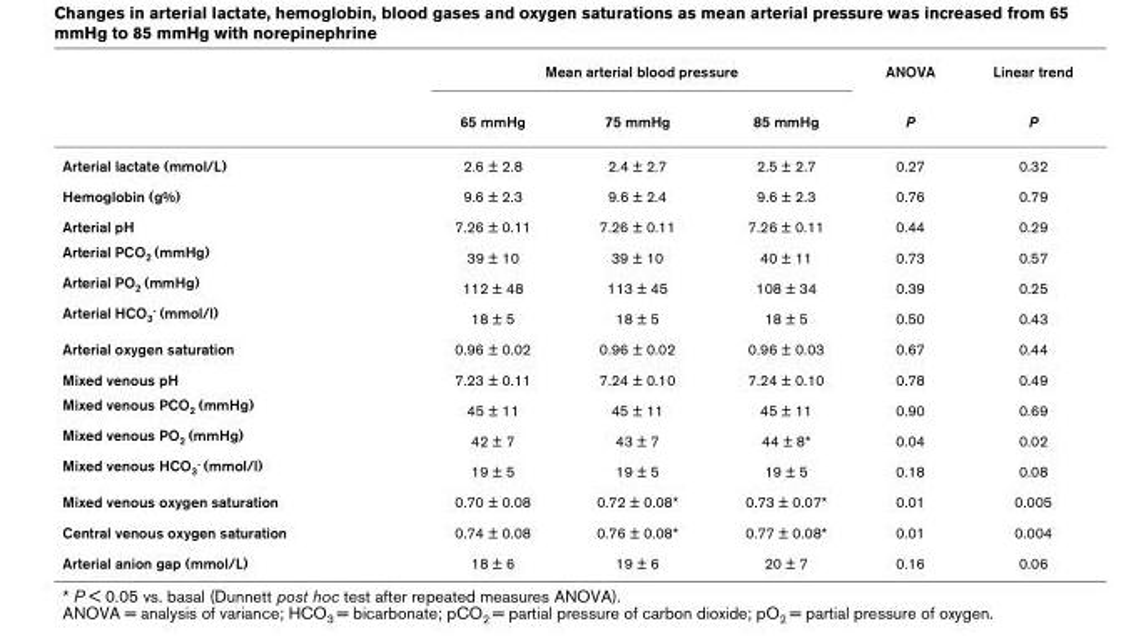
<table><thead><tr><td rowspan="2"></td><td colspan="3">Mean arterial blood pressure</td><td rowspan="2">ANOVA P</td><td rowspan="2">Linear trend P</td></tr><tr><td>65 mmHg</td><td>75 mmHg</td><td>85 mmHg</td></tr></thead><tbody><tr><td>Arterial lactate (mmol/L)</td><td>2.6 ± 2.8</td><td>2.4 ± 2.7</td><td>2.5 ± 2.7</td><td>0.27</td><td>0.32</td></tr><tr><td>Hemoglobin (g%)</td><td>9.6 ± 2.3</td><td>9.6 ± 2.4</td><td>9.6 ± 2.3</td><td>0.76</td><td>0.79</td></tr><tr><td>Arterial pH</td><td>7.26 ± 0.11</td><td>7.26 ± 0.11</td><td>7.26 ± 0.11</td><td>0.44</td><td>0.29</td></tr><tr><td>Arterial PCO<sub>2</sub> (mmHg)</td><td>39 ± 10</td><td>39 ± 10</td><td>40 ± 11</td><td>0.73</td><td>0.57</td></tr><tr><td>Arterial PO<sub>2</sub> (mmHg)</td><td>112 ± 48</td><td>113 ± 45</td><td>108 ± 34</td><td>0.39</td><td>0.25</td></tr><tr><td>Arterial HCO<sub>3</sub><sup>-</sup> (mmol/l)</td><td>18 ± 5</td><td>18 ± 5</td><td>18 ± 5</td><td>0.50</td><td>0.43</td></tr><tr><td>Arterial oxygen saturation</td><td>0.96 ± 0.02</td><td>0.96 ± 0.02</td><td>0.96 ± 0.03</td><td>0.67</td><td>0.44</td></tr><tr><td>Mixed venous pH</td><td>7.23 ± 0.11</td><td>7.24 ± 0.10</td><td>7.24 ± 0.10</td><td>0.78</td><td>0.49</td></tr><tr><td>Mixed venous PCO<sub>2</sub> (mmHg)</td><td>45 ± 11</td><td>45 ± 11</td><td>45 ± 11</td><td>0.90</td><td>0.69</td></tr><tr><td>Mixed venous PO<sub>2</sub> (mmHg)</td><td>42 ± 7</td><td>43 ± 7</td><td>44 ± 8*</td><td>0.04</td><td>0.02</td></tr><tr><td>Mixed venous HCO<sub>3</sub><sup>-</sup> (mmol/l)</td><td>19 ± 5</td><td>19 ± 5</td><td>19 ± 5</td><td>0.18</td><td>0.08</td></tr><tr><td>Mixed venous oxygen saturation</td><td>0.70 ± 0.08</td><td>0.72 ± 0.08*</td><td>0.73 ± 0.07*</td><td>0.01</td><td>0.005</td></tr><tr><td>Central venous oxygen saturation</td><td>0.74 ± 0.08</td><td>0.76 ± 0.08*</td><td>0.77 ± 0.08*</td><td>0.01</td><td>0.004</td></tr><tr><td>Arterial anion gap (mmol/L)</td><td>18 ± 6</td><td>19 ± 6</td><td>20 ± 7</td><td>0.16</td><td>0.06</td></tr></tbody></table>